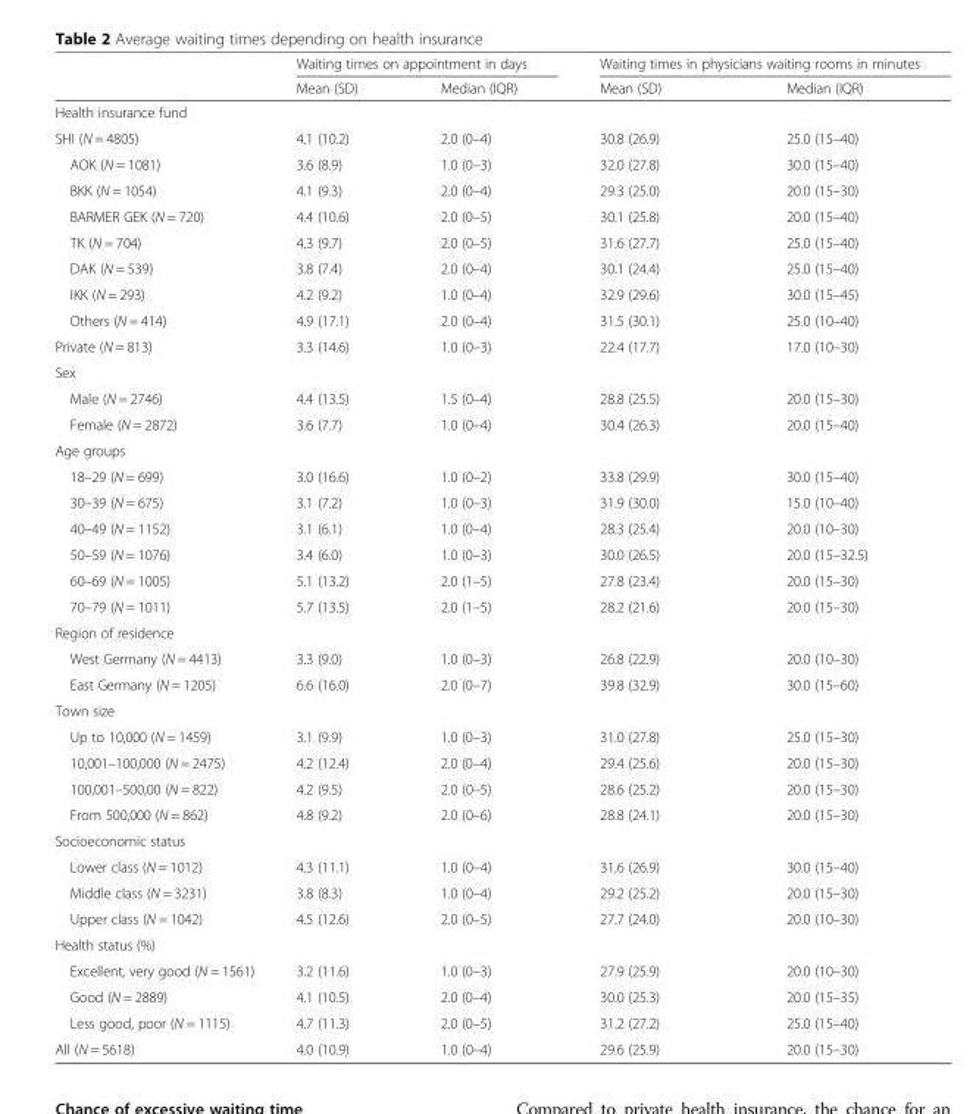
<table><thead><tr><td rowspan="2"></td><td colspan="2">Waiting times on appointment in days</td><td colspan="2">Waiting times in physicians waiting rooms in minutes</td></tr><tr><td>Mean (SD)</td><td>Median (IQR)</td><td>Mean (SD)</td><td>Median (IQR)</td></tr></thead><tbody><tr><td colspan="5">Health insurance fund</td></tr><tr><td>SHI (N = 4805)</td><td>4.1 (10.2)</td><td>2.0 (0–4)</td><td>30.8 (26.9)</td><td>25.0 (15–40)</td></tr><tr><td>AOK (N = 1081)</td><td>3.6 (8.9)</td><td>1.0 (0–3)</td><td>32.0 (27.8)</td><td>30.0 (15–40)</td></tr><tr><td>BKK (N = 1054)</td><td>4.1 (9.3)</td><td>2.0 (0–4)</td><td>29.3 (25.0)</td><td>20.0 (15–30)</td></tr><tr><td>BARMER GEK (N = 720)</td><td>4.4 (10.6)</td><td>2.0 (0–5)</td><td>30.1 (25.8)</td><td>20.0 (15–40)</td></tr><tr><td>TK (N = 704)</td><td>4.3 (9.7)</td><td>2.0 (0–5)</td><td>31.6 (27.7)</td><td>25.0 (15–40)</td></tr><tr><td>DAK (N = 539)</td><td>3.8 (7.4)</td><td>2.0 (0–4)</td><td>30.1 (24.4)</td><td>25.0 (15–40)</td></tr><tr><td>IKK (N = 293)</td><td>4.2 (9.2)</td><td>1.0 (0–4)</td><td>32.9 (29.6)</td><td>30.0 (15–45)</td></tr><tr><td>Others (N = 414)</td><td>4.9 (17.1)</td><td>2.0 (0–4)</td><td>31.5 (30.1)</td><td>25.0 (10–40)</td></tr><tr><td>Private (N = 813)</td><td>3.3 (14.6)</td><td>1.0 (0–3)</td><td>22.4 (17.7)</td><td>17.0 (10–30)</td></tr><tr><td colspan="5">Sex</td></tr><tr><td>Male (N = 2746)</td><td>4.4 (13.5)</td><td>1.5 (0–4)</td><td>28.8 (25.5)</td><td>20.0 (15–30)</td></tr><tr><td>Female (N = 2872)</td><td>3.6 (7.7)</td><td>1.0 (0–4)</td><td>30.4 (26.3)</td><td>20.0 (15–40)</td></tr><tr><td colspan="5">Age groups</td></tr><tr><td>18–29 (N = 699)</td><td>3.0 (16.6)</td><td>1.0 (0–2)</td><td>33.8 (29.9)</td><td>30.0 (15–40)</td></tr><tr><td>30–39 (N = 675)</td><td>3.1 (7.2)</td><td>1.0 (0–3)</td><td>31.9 (30.0)</td><td>15.0 (10–40)</td></tr><tr><td>40–49 (N = 1152)</td><td>3.1 (6.1)</td><td>1.0 (0–4)</td><td>28.3 (25.4)</td><td>20.0 (10–30)</td></tr><tr><td>50–59 (N = 1076)</td><td>3.4 (6.0)</td><td>1.0 (0–3)</td><td>30.0 (26.5)</td><td>20.0 (15–32.5)</td></tr><tr><td>60–69 (N = 1005)</td><td>5.1 (13.2)</td><td>2.0 (1–5)</td><td>27.8 (23.4)</td><td>20.0 (15–30)</td></tr><tr><td>70–79 (N = 1011)</td><td>5.7 (13.5)</td><td>2.0 (1–5)</td><td>28.2 (21.6)</td><td>20.0 (15–30)</td></tr><tr><td colspan="5">Region of residence</td></tr><tr><td>West Germany (N = 4413)</td><td>3.3 (9.0)</td><td>1.0 (0–3)</td><td>26.8 (22.9)</td><td>20.0 (10–30)</td></tr><tr><td>East Germany (N = 1205)</td><td>6.6 (16.0)</td><td>2.0 (0–7)</td><td>39.8 (32.9)</td><td>30.0 (15–60)</td></tr><tr><td colspan="5">Town size</td></tr><tr><td>Up to 10,000 (N = 1459)</td><td>3.1 (9.9)</td><td>1.0 (0–3)</td><td>31.0 (27.8)</td><td>25.0 (15–30)</td></tr><tr><td>10,001–100,000 (N = 2475)</td><td>4.2 (12.4)</td><td>2.0 (0–4)</td><td>29.4 (25.6)</td><td>20.0 (15–30)</td></tr><tr><td>100,001–500,00 (N = 822)</td><td>4.2 (9.5)</td><td>2.0 (0–5)</td><td>28.6 (25.2)</td><td>20.0 (15–30)</td></tr><tr><td>From 500,000 (N = 862)</td><td>4.8 (9.2)</td><td>2.0 (0–6)</td><td>28.8 (24.1)</td><td>20.0 (15–30)</td></tr><tr><td colspan="5">Socioeconomic status</td></tr><tr><td>Lower class (N = 1012)</td><td>4.3 (11.1)</td><td>1.0 (0–4)</td><td>31.6 (26.9)</td><td>30.0 (15–40)</td></tr><tr><td>Middle class (N = 3231)</td><td>3.8 (8.3)</td><td>1.0 (0–4)</td><td>29.2 (25.2)</td><td>20.0 (15–30)</td></tr><tr><td>Upper class (N = 1042)</td><td>4.5 (12.6)</td><td>2.0 (0–5)</td><td>27.7 (24.0)</td><td>20.0 (10–30)</td></tr><tr><td colspan="5">Health status (%)</td></tr><tr><td>Excellent, very good (N = 1561)</td><td>3.2 (11.6)</td><td>1.0 (0–3)</td><td>27.9 (25.9)</td><td>20.0 (10–30)</td></tr><tr><td>Good (N = 2889)</td><td>4.1 (10.5)</td><td>2.0 (0–4)</td><td>30.0 (25.3)</td><td>20.0 (15–35)</td></tr><tr><td>Less good, poor (N = 1115)</td><td>4.7 (11.3)</td><td>2.0 (0–5)</td><td>31.2 (27.2)</td><td>25.0 (15–40)</td></tr><tr><td>All (N = 5618)</td><td>4.0 (10.9)</td><td>1.0 (0–4)</td><td>29.6 (25.9)</td><td>20.0 (15–30)</td></tr></tbody></table>